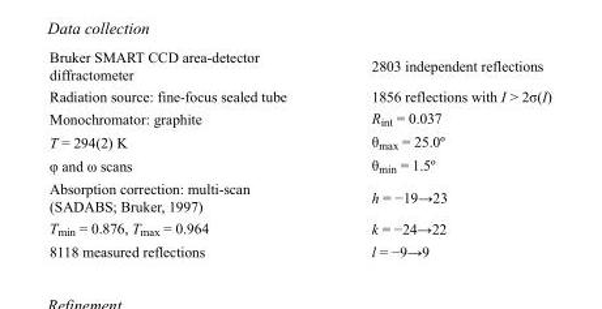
<table><tbody><tr><td>Bruker SMART CCD area-detector diffractometer</td><td>2803 independent reflections</td></tr><tr><td>Radiation source: fine-focus sealed tube</td><td>1856 reflections with I &gt; 2σ(I)</td></tr><tr><td>Monochromator: graphite</td><td>R<sub>int</sub> = 0.037</td></tr><tr><td>T = 294(2) K</td><td>θ<sub>max</sub> = 25.0º</td></tr><tr><td>φ and ω scans</td><td>θ<sub>min</sub> = 1.5º</td></tr><tr><td>Absorption correction: multi-scan (SADABS; Bruker, 1997)</td><td>h = −19→23</td></tr><tr><td>T<sub>min</sub> = 0.876, T<sub>max</sub> = 0.964</td><td>k = −24→22</td></tr><tr><td>8118 measured reflections</td><td>l = −9→9</td></tr></tbody></table>